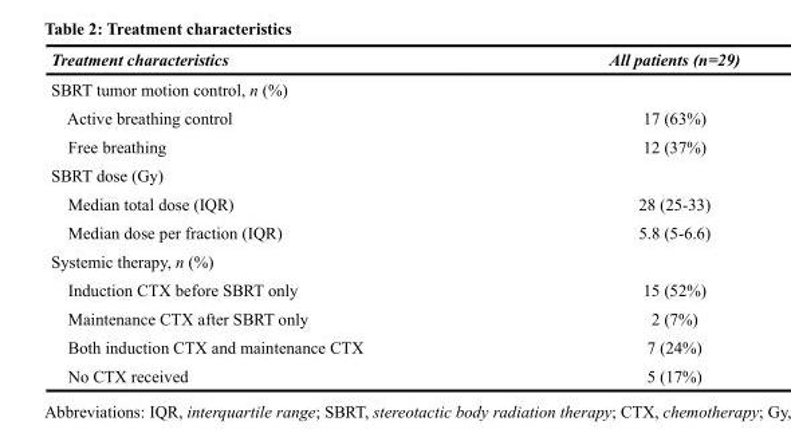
<table><thead><tr><td>Treatment characteristics</td><td>All patients (n=29)</td></tr></thead><tbody><tr><td colspan="2">SBRT tumor motion control, n (%)</td></tr><tr><td>Active breathing control</td><td>17 (63%)</td></tr><tr><td>Free breathing</td><td>12 (37%)</td></tr><tr><td colspan="2">SBRT dose (Gy)</td></tr><tr><td>Median total dose (IQR)</td><td>28 (25-33)</td></tr><tr><td>Median dose per fraction (IQR)</td><td>5.8 (5-6.6)</td></tr><tr><td colspan="2">Systemic therapy, n (%)</td></tr><tr><td>Induction CTX before SBRT only</td><td>15 (52%)</td></tr><tr><td>Maintenance CTX after SBRT only</td><td>2 (7%)</td></tr><tr><td>Both induction CTX and maintenance CTX</td><td>7 (24%)</td></tr><tr><td>No CTX received</td><td>5 (17%)</td></tr></tbody></table>